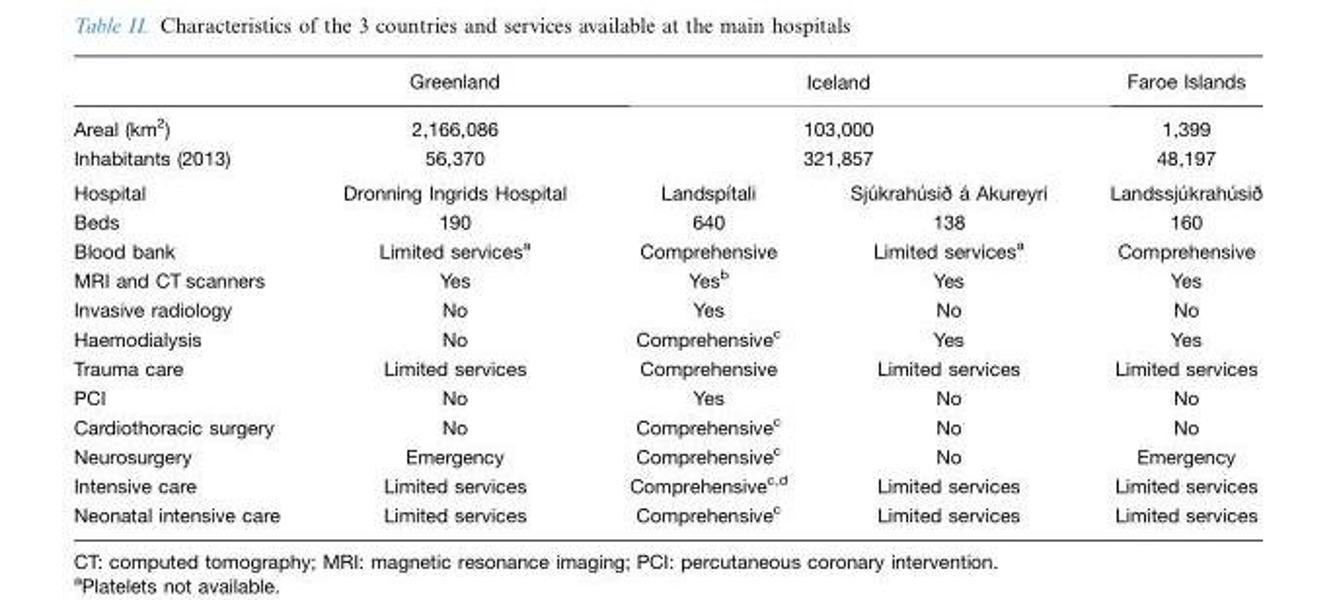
<table><thead><tr><td rowspan="4">Areal (km<sup>2</sup>) Inhabitants (2013) Hospital</td><td rowspan="4">Greenland 2,166,086 56,370 Dronning Ingrids Hospital</td><td rowspan="3" colspan="2">Iceland 103,000 321,857</td><td rowspan="4">Faroe Islands 1,399 48,197 Landssju´ krahu´ sið</td></tr><tr></tr><tr></tr><tr><td>Landspı´tali</td><td>Sju´ krahu´ sið a´ Akureyri</td></tr></thead><tbody><tr><td>Beds</td><td>190</td><td>640</td><td>138</td><td>160</td></tr><tr><td>Blood bank</td><td>Limited services<sup>a</sup></td><td>Comprehensive</td><td>Limited services<sup>a</sup></td><td>Comprehensive</td></tr><tr><td>MRI and CT scanners</td><td>Yes</td><td>Yes<sup>b</sup></td><td>Yes</td><td>Yes</td></tr><tr><td>Invasive radiology</td><td>No</td><td>Yes</td><td>No</td><td>No</td></tr><tr><td>Haemodialysis</td><td>No</td><td>Comprehensive<sup>c</sup></td><td>Yes</td><td>Yes</td></tr><tr><td>Trauma care</td><td>Limited services</td><td>Comprehensive</td><td>Limited services</td><td>Limited services</td></tr><tr><td>PCI</td><td>No</td><td>Yes</td><td>No</td><td>No</td></tr><tr><td>Cardiothoracic surgery</td><td>No</td><td>Comprehensive<sup>c</sup></td><td>No</td><td>No</td></tr><tr><td>Neurosurgery</td><td>Emergency</td><td>Comprehensive<sup>c</sup></td><td>No</td><td>Emergency</td></tr><tr><td>Intensive care</td><td>Limited services</td><td>Comprehensive<sup>c</sup>,<sup>d</sup></td><td>Limited services</td><td>Limited services</td></tr><tr><td>Neonatal intensive care</td><td>Limited services</td><td>Comprehensive<sup>c</sup></td><td>Limited services</td><td>Limited services</td></tr></tbody></table>